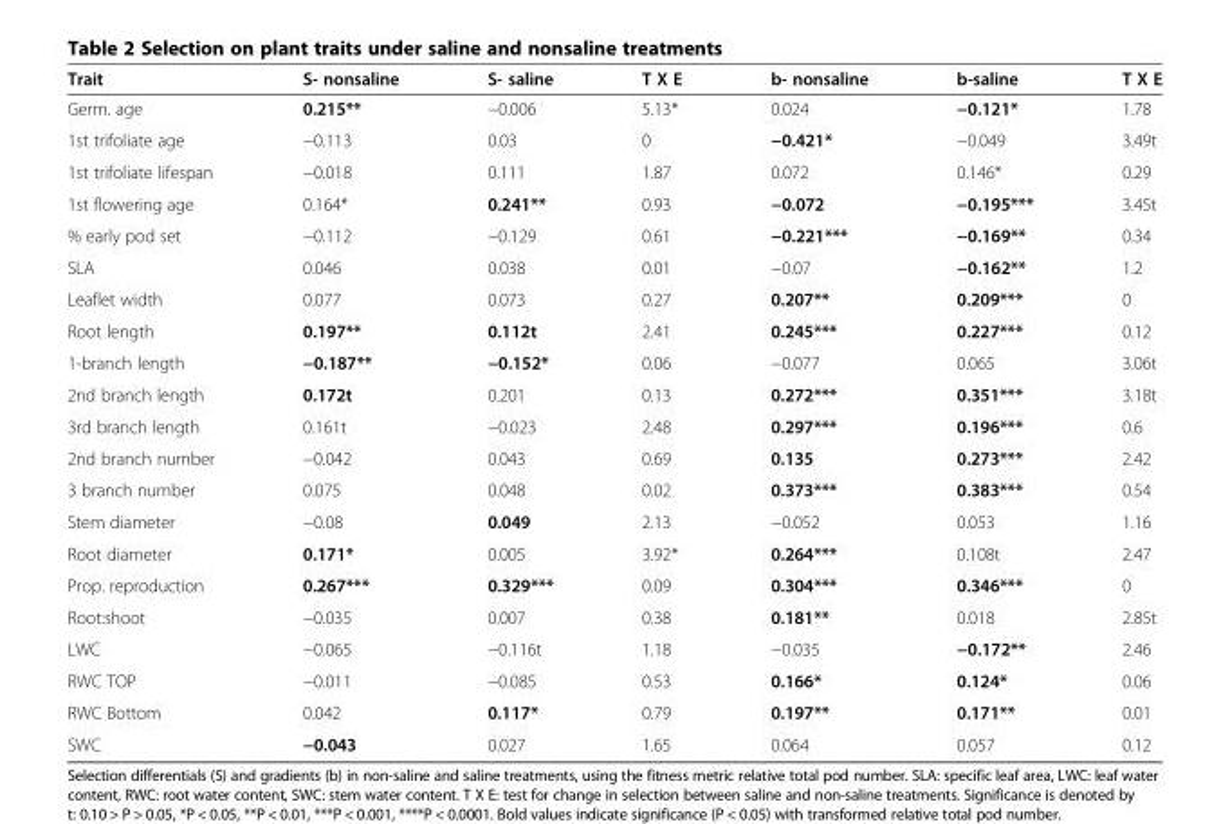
<table><thead><tr><td>Trait</td><td>S- nonsaline</td><td>S- saline</td><td>T X E</td><td>b- nonsaline</td><td>b-saline</td><td>T X E</td></tr></thead><tbody><tr><td>Germ. age</td><td>0.215**</td><td>−0.006</td><td>5.13*</td><td>0.024</td><td>−0.121*</td><td>1.78</td></tr><tr><td>1st trifoliate age</td><td>−0.113</td><td>0.03</td><td>0</td><td>−0.421*</td><td>−0.049</td><td>3.49t</td></tr><tr><td>1st trifoliate lifespan</td><td>−0.018</td><td>0.111</td><td>1.87</td><td>0.072</td><td>0.146*</td><td>0.29</td></tr><tr><td>1st flowering age</td><td>0.164*</td><td>0.241**</td><td>0.93</td><td>−0.072</td><td>−0.195***</td><td>3.45t</td></tr><tr><td>% early pod set</td><td>−0.112</td><td>−0.129</td><td>0.61</td><td>−0.221***</td><td>−0.169**</td><td>0.34</td></tr><tr><td>SLA</td><td>0.046</td><td>0.038</td><td>0.01</td><td>−0.07</td><td>−0.162**</td><td>1.2</td></tr><tr><td>Leaflet width</td><td>0.077</td><td>0.073</td><td>0.27</td><td>0.207**</td><td>0.209***</td><td>0</td></tr><tr><td>Root length</td><td>0.197**</td><td>0.112t</td><td>2.41</td><td>0.245***</td><td>0.227***</td><td>0.12</td></tr><tr><td>1-branch length</td><td>−0.187**</td><td>−0.152*</td><td>0.06</td><td>−0.077</td><td>0.065</td><td>3.06t</td></tr><tr><td>2nd branch length</td><td>0.172t</td><td>0.201</td><td>0.13</td><td>0.272***</td><td>0.351***</td><td>3.18t</td></tr><tr><td>3rd branch length</td><td>0.161t</td><td>−0.023</td><td>2.48</td><td>0.297***</td><td>0.196***</td><td>0.6</td></tr><tr><td>2nd branch number</td><td>−0.042</td><td>0.043</td><td>0.69</td><td>0.135</td><td>0.273***</td><td>2.42</td></tr><tr><td>3 branch number</td><td>0.075</td><td>0.048</td><td>0.02</td><td>0.373***</td><td>0.383***</td><td>0.54</td></tr><tr><td>Stem diameter</td><td>−0.08</td><td>0.049</td><td>2.13</td><td>−0.052</td><td>0.053</td><td>1.16</td></tr><tr><td>Root diameter</td><td>0.171*</td><td>0.005</td><td>3.92*</td><td>0.264***</td><td>0.108t</td><td>2.47</td></tr><tr><td>Prop. reproduction</td><td>0.267***</td><td>0.329***</td><td>0.09</td><td>0.304***</td><td>0.346***</td><td>0</td></tr><tr><td>Root:shoot</td><td>−0.035</td><td>0.007</td><td>0.38</td><td>0.181**</td><td>0.018</td><td>2.85t</td></tr><tr><td>LWC</td><td>−0.065</td><td>−0.116t</td><td>1.18</td><td>−0.035</td><td>−0.172**</td><td>2.46</td></tr><tr><td>RWC TOP</td><td>−0.011</td><td>−0.085</td><td>0.53</td><td>0.166*</td><td>0.124*</td><td>0.06</td></tr><tr><td>RWC Bottom</td><td>0.042</td><td>0.117*</td><td>0.79</td><td>0.197**</td><td>0.171**</td><td>0.01</td></tr><tr><td>SWC</td><td>−0.043</td><td>0.027</td><td>1.65</td><td>0.064</td><td>0.057</td><td>0.12</td></tr></tbody></table>